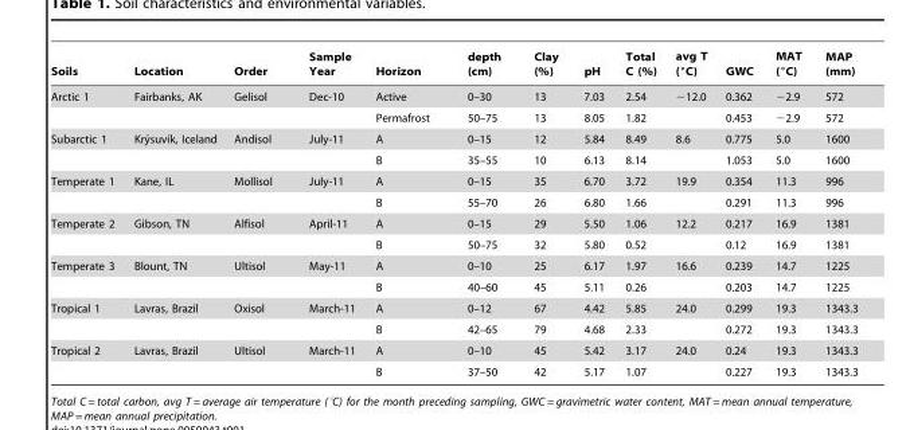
<table><thead><tr><td>Soils</td><td>Location</td><td>Order</td><td>Sample Year</td><td>Horizon</td><td>depth (cm)</td><td>Clay (%)</td><td>pH</td><td>Total C (%)</td><td>avg T (°C)</td><td>GWC</td><td>MAT (°C)</td><td>MAP (mm)</td></tr></thead><tbody><tr><td rowspan="2">Arctic 1</td><td>Fairbanks, AK</td><td>Gelisol</td><td>Dec-10</td><td>Active</td><td>0–30</td><td>13</td><td>7.03</td><td>2.54</td><td>−12.0</td><td>0.362</td><td>−2.9</td><td>572</td></tr><tr><td></td><td></td><td></td><td>Permafrost</td><td>50–75</td><td>13</td><td>8.05</td><td>1.82</td><td></td><td>0.453</td><td>−2.9</td><td>572</td></tr><tr><td rowspan="2">Subarctic 1</td><td>Kry´suvı´k, Iceland</td><td>Andisol</td><td>July-11</td><td>A</td><td>0–15</td><td>12</td><td>5.84</td><td>8.49</td><td>8.6</td><td>0.775</td><td>5.0</td><td>1600</td></tr><tr><td></td><td></td><td></td><td>B</td><td>35–55</td><td>10</td><td>6.13</td><td>8.14</td><td></td><td>1.053</td><td>5.0</td><td>1600</td></tr><tr><td rowspan="2">Temperate 1</td><td>Kane, IL</td><td>Mollisol</td><td>July-11</td><td>A</td><td>0–15</td><td>35</td><td>6.70</td><td>3.72</td><td>19.9</td><td>0.354</td><td>11.3</td><td>996</td></tr><tr><td></td><td></td><td></td><td>B</td><td>55–70</td><td>26</td><td>6.80</td><td>1.66</td><td></td><td>0.291</td><td>11.3</td><td>996</td></tr><tr><td rowspan="2">Temperate 2</td><td>Gibson, TN</td><td>Alfisol</td><td>April-11</td><td>A</td><td>0–15</td><td>29</td><td>5.50</td><td>1.06</td><td>12.2</td><td>0.217</td><td>16.9</td><td>1381</td></tr><tr><td></td><td></td><td></td><td>B</td><td>50–75</td><td>32</td><td>5.80</td><td>0.52</td><td></td><td>0.12</td><td>16.9</td><td>1381</td></tr><tr><td rowspan="2">Temperate 3</td><td>Blount, TN</td><td>Ultisol</td><td>May-11</td><td>A</td><td>0–10</td><td>25</td><td>6.17</td><td>1.97</td><td>16.6</td><td>0.239</td><td>14.7</td><td>1225</td></tr><tr><td></td><td></td><td></td><td>B</td><td>40–60</td><td>45</td><td>5.11</td><td>0.26</td><td></td><td>0.203</td><td>14.7</td><td>1225</td></tr><tr><td rowspan="2">Tropical 1</td><td>Lavras, Brazil</td><td>Oxisol</td><td>March-11</td><td>A</td><td>0–12</td><td>67</td><td>4.42</td><td>5.85</td><td>24.0</td><td>0.299</td><td>19.3</td><td>1343.3</td></tr><tr><td></td><td></td><td></td><td>B</td><td>42–65</td><td>79</td><td>4.68</td><td>2.33</td><td></td><td>0.272</td><td>19.3</td><td>1343.3</td></tr><tr><td rowspan="2">Tropical 2</td><td>Lavras, Brazil</td><td>Ultisol</td><td>March-11</td><td>A</td><td>0–10</td><td>45</td><td>5.42</td><td>3.17</td><td>24.0</td><td>0.24</td><td>19.3</td><td>1343.3</td></tr><tr><td></td><td></td><td></td><td>B</td><td>37–50</td><td>42</td><td>5.17</td><td>1.07</td><td></td><td>0.227</td><td>19.3</td><td>1343.3</td></tr></tbody></table>